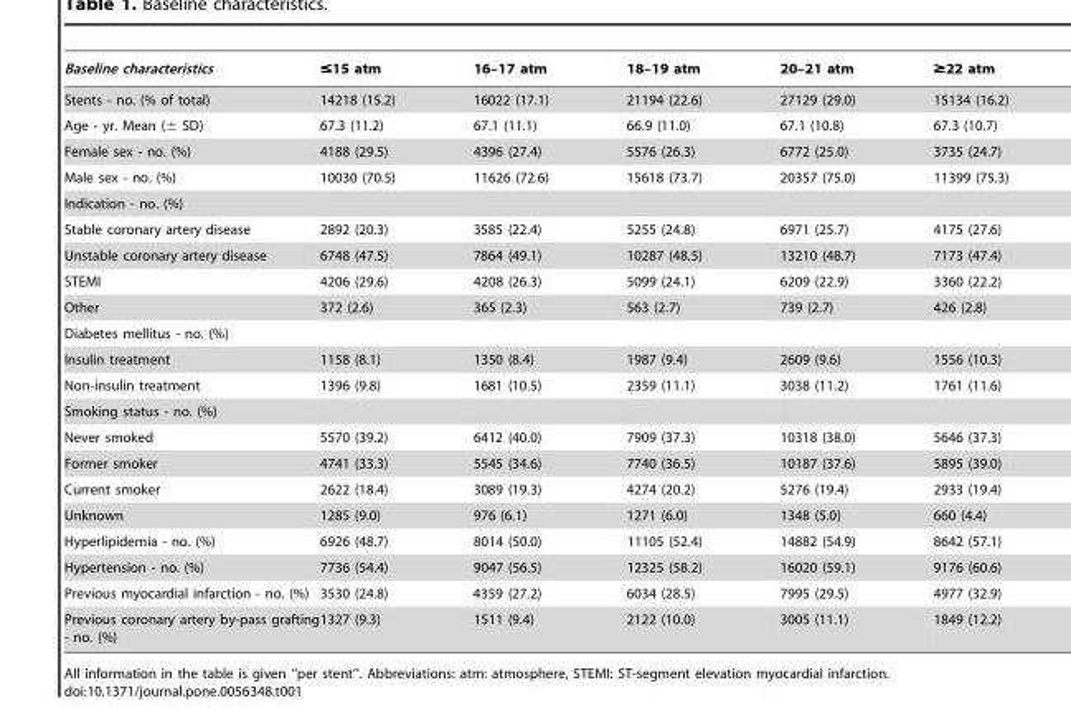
<table><thead><tr><td>Baseline characteristics</td><td>≤15 atm</td><td>16–17 atm</td><td>18–19 atm</td><td>20–21 atm</td><td>≥22 atm</td></tr></thead><tbody><tr><td>Stents - no. (% of total)</td><td>14218 (15.2)</td><td>16022 (17.1)</td><td>21194 (22.6)</td><td>27129 (29.0)</td><td>15134 (16.2)</td></tr><tr><td>Age - yr. Mean (± SD)</td><td>67.3 (11.2)</td><td>67.1 (11.1)</td><td>66.9 (11.0)</td><td>67.1 (10.8)</td><td>67.3 (10.7)</td></tr><tr><td>Female sex - no. (%)</td><td>4188 (29.5)</td><td>4396 (27.4)</td><td>5576 (26.3)</td><td>6772 (25.0)</td><td>3735 (24.7)</td></tr><tr><td>Male sex - no. (%)</td><td>10030 (70.5)</td><td>11626 (72.6)</td><td>15618 (73.7)</td><td>20357 (75.0)</td><td>11399 (75.3)</td></tr><tr><td colspan="6">Indication - no. (%)</td></tr><tr><td>Stable coronary artery disease</td><td>2892 (20.3)</td><td>3585 (22.4)</td><td>5255 (24.8)</td><td>6971 (25.7)</td><td>4175 (27.6)</td></tr><tr><td>Unstable coronary artery disease</td><td>6748 (47.5)</td><td>7864 (49.1)</td><td>10287 (48.5)</td><td>13210 (48.7)</td><td>7173 (47.4)</td></tr><tr><td>STEMI</td><td>4206 (29.6)</td><td>4208 (26.3)</td><td>5099 (24.1)</td><td>6209 (22.9)</td><td>3360 (22.2)</td></tr><tr><td>Other</td><td>372 (2.6)</td><td>365 (2.3)</td><td>563 (2.7)</td><td>739 (2.7)</td><td>426 (2.8)</td></tr><tr><td colspan="6">Diabetes mellitus - no. (%)</td></tr><tr><td>Insulin treatment</td><td>1158 (8.1)</td><td>1350 (8.4)</td><td>1987 (9.4)</td><td>2609 (9.6)</td><td>1556 (10.3)</td></tr><tr><td>Non-insulin treatment</td><td>1396 (9.8)</td><td>1681 (10.5)</td><td>2359 (11.1)</td><td>3038 (11.2)</td><td>1761 (11.6)</td></tr><tr><td colspan="6">Smoking status - no. (%)</td></tr><tr><td>Never smoked</td><td>5570 (39.2)</td><td>6412 (40.0)</td><td>7909 (37.3)</td><td>10318 (38.0)</td><td>5646 (37.3)</td></tr><tr><td>Former smoker</td><td>4741 (33.3)</td><td>5545 (34.6)</td><td>7740 (36.5)</td><td>10187 (37.6)</td><td>5895 (39.0)</td></tr><tr><td>Current smoker</td><td>2622 (18.4)</td><td>3089 (19.3)</td><td>4274 (20.2)</td><td>5276 (19.4)</td><td>2933 (19.4)</td></tr><tr><td>Unknown</td><td>1285 (9.0)</td><td>976 (6.1)</td><td>1271 (6.0)</td><td>1348 (5.0)</td><td>660 (4.4)</td></tr><tr><td>Hyperlipidemia - no. (%)</td><td>6926 (48.7)</td><td>8014 (50.0)</td><td>11105 (52.4)</td><td>14882 (54.9)</td><td>8642 (57.1)</td></tr><tr><td>Hypertension - no. (%)</td><td>7736 (54.4)</td><td>9047 (56.5)</td><td>12325 (58.2)</td><td>16020 (59.1)</td><td>9176 (60.6)</td></tr><tr><td>Previous myocardial infarction - no. (%)</td><td>3530 (24.8)</td><td>4359 (27.2)</td><td>6034 (28.5)</td><td>7995 (29.5)</td><td>4977 (32.9)</td></tr><tr><td>Previous coronary artery by-pass grafting - no. (%)</td><td>1327 (9.3)</td><td>1511 (9.4)</td><td>2122 (10.0)</td><td>3005 (11.1)</td><td>1849 (12.2)</td></tr></tbody></table>